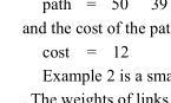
<table><tbody><tr><td>cost</td><td>=</td><td>12</td></tr></tbody></table>